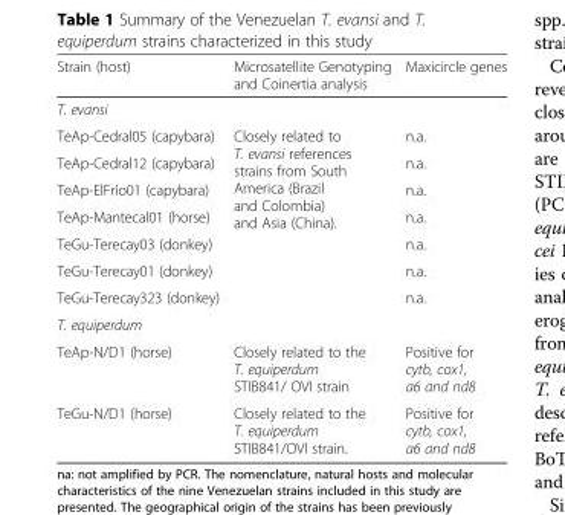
<table><thead><tr><td>Strain (host)</td><td>Microsatellite Genotyping and Coinertia analysis</td><td>Maxicircle genes</td></tr></thead><tbody><tr><td colspan="3">T. evansi</td></tr><tr><td>TeAp-Cedral05 (capybara)</td><td rowspan="7">Closely related to T. evansi references strains from South America (Brazil and Colombia) and Asia (China).</td><td>n.a.</td></tr><tr><td>TeAp-Cedral12 (capybara)</td><td>n.a.</td></tr><tr><td>TeAp-ElFrío01 (capybara)</td><td>n.a.</td></tr><tr><td>TeAp-Mantecal01 (horse)</td><td>n.a.</td></tr><tr><td>TeGu-Terecay03 (donkey)</td><td>n.a.</td></tr><tr><td>TeGu-Terecay01 (donkey)</td><td>n.a.</td></tr><tr><td>TeGu-Terecay323 (donkey)</td><td>n.a.</td></tr><tr><td colspan="3">T. equiperdum</td></tr><tr><td>TeAp-N/D1 (horse)</td><td>Closely related to the T. equiperdum STIB841/ OVI strain</td><td>Positive for cytb, cox1, a6 and nd8</td></tr><tr><td>TeGu-N/D1 (horse)</td><td>Closely related to the T. equiperdum STIB841/OVI strain.</td><td>Positive for cytb, cox1, a6 and nd8</td></tr></tbody></table>